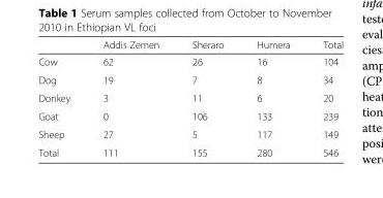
<table><thead><tr><td></td><td>Addis Zemen</td><td>Sheraro</td><td>Humera</td><td>Total</td></tr></thead><tbody><tr><td>Cow</td><td>62</td><td>26</td><td>16</td><td>104</td></tr><tr><td>Dog</td><td>19</td><td>7</td><td>8</td><td>34</td></tr><tr><td>Donkey</td><td>3</td><td>11</td><td>6</td><td>20</td></tr><tr><td>Goat</td><td>0</td><td>106</td><td>133</td><td>239</td></tr><tr><td>Sheep</td><td>27</td><td>5</td><td>117</td><td>149</td></tr><tr><td>Total</td><td>111</td><td>155</td><td>280</td><td>546</td></tr></tbody></table>